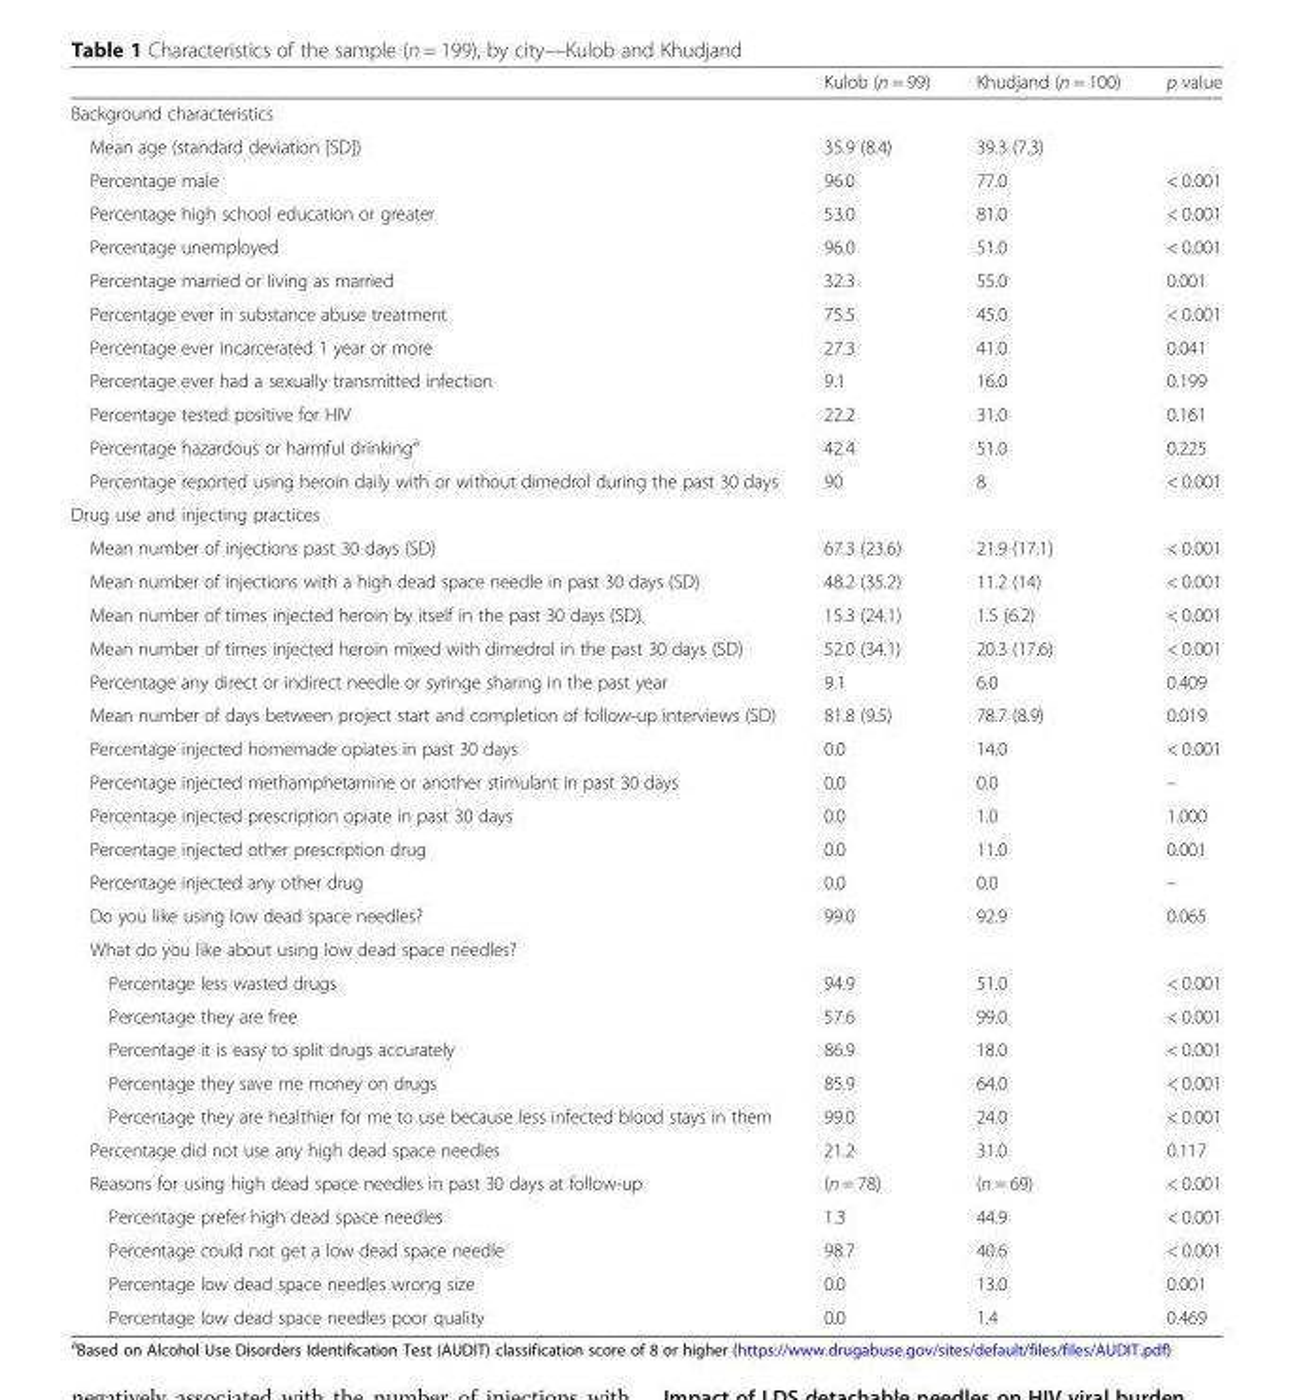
<table><thead><tr><td></td><td>Kulob (n = 99)</td><td>Khudjand (n = 100)</td><td>p value</td></tr></thead><tbody><tr><td colspan="4">Background characteristics</td></tr><tr><td>Mean age (standard deviation [SD])</td><td>35.9 (8.4)</td><td>39.3 (7.3)</td><td></td></tr><tr><td>Percentage male</td><td>96.0</td><td>77.0</td><td>&lt; 0.001</td></tr><tr><td>Percentage high school education or greater</td><td>53.0</td><td>81.0</td><td>&lt; 0.001</td></tr><tr><td>Percentage unemployed</td><td>96.0</td><td>51.0</td><td>&lt; 0.001</td></tr><tr><td>Percentage married or living as married</td><td>32.3</td><td>55.0</td><td>0.001</td></tr><tr><td>Percentage ever in substance abuse treatment</td><td>75.5</td><td>45.0</td><td>&lt; 0.001</td></tr><tr><td>Percentage ever incarcerated 1 year or more</td><td>27.3</td><td>41.0</td><td>0.041</td></tr><tr><td>Percentage ever had a sexually transmitted infection</td><td>9.1</td><td>16.0</td><td>0.199</td></tr><tr><td>Percentage tested positive for HIV</td><td>22.2</td><td>31.0</td><td>0.161</td></tr><tr><td>Percentage hazardous or harmful drinking<sup>a</sup></td><td>42.4</td><td>51.0</td><td>0.225</td></tr><tr><td>Percentage reported using heroin daily with or without dimedrol during the past 30 days</td><td>90</td><td>8</td><td>&lt; 0.001</td></tr><tr><td colspan="4">Drug use and injecting practices</td></tr><tr><td>Mean number of injections past 30 days (SD)</td><td>67.3 (23.6)</td><td>21.9 (17.1)</td><td>&lt; 0.001</td></tr><tr><td>Mean number of injections with a high dead space needle in past 30 days (SD)</td><td>48.2 (35.2)</td><td>11.2 (14)</td><td>&lt; 0.001</td></tr><tr><td>Mean number of times injected heroin by itself in the past 30 days (SD)</td><td>15.3 (24.1)</td><td>1.5 (6.2)</td><td>&lt; 0.001</td></tr><tr><td>Mean number of times injected heroin mixed with dimedrol in the past 30 days (SD)</td><td>52.0 (34.1)</td><td>20.3 (17.6)</td><td>&lt; 0.001</td></tr><tr><td>Percentage any direct or indirect needle or syringe sharing in the past year</td><td>9.1</td><td>6.0</td><td>0.409</td></tr><tr><td>Mean number of days between project start and completion of follow-up interviews (SD)</td><td>81.8 (9.5)</td><td>78.7 (8.9)</td><td>0.019</td></tr><tr><td>Percentage injected homemade opiates in past 30 days</td><td>0.0</td><td>14.0</td><td>&lt; 0.001</td></tr><tr><td>Percentage injected methamphetamine or another stimulant in past 30 days</td><td>0.0</td><td>0.0</td><td>–</td></tr><tr><td>Percentage injected prescription opiate in past 30 days</td><td>0.0</td><td>1.0</td><td>1.000</td></tr><tr><td>Percentage injected other prescription drug</td><td>0.0</td><td>11.0</td><td>0.001</td></tr><tr><td>Percentage injected any other drug</td><td>0.0</td><td>0.0</td><td>–</td></tr><tr><td>Do you like using low dead space needles?</td><td>99.0</td><td>92.9</td><td>0.065</td></tr><tr><td colspan="4">What do you like about using low dead space needles?</td></tr><tr><td>Percentage less wasted drugs</td><td>94.9</td><td>51.0</td><td>&lt; 0.001</td></tr><tr><td>Percentage they are free</td><td>57.6</td><td>99.0</td><td>&lt; 0.001</td></tr><tr><td>Percentage it is easy to split drugs accurately</td><td>86.9</td><td>18.0</td><td>&lt; 0.001</td></tr><tr><td>Percentage they save me money on drugs</td><td>85.9</td><td>64.0</td><td>&lt; 0.001</td></tr><tr><td>Percentage they are healthier for me to use because less infected blood stays in them</td><td>99.0</td><td>24.0</td><td>&lt; 0.001</td></tr><tr><td>Percentage did not use any high dead space needles</td><td>21.2</td><td>31.0</td><td>0.117</td></tr><tr><td>Reasons for using high dead space needles in past 30 days at follow-up</td><td>(n = 78)</td><td>(n = 69)</td><td>&lt; 0.001</td></tr><tr><td>Percentage prefer high dead space needles</td><td>1.3</td><td>44.9</td><td>&lt; 0.001</td></tr><tr><td>Percentage could not get a low dead space needle</td><td>98.7</td><td>40.6</td><td>&lt; 0.001</td></tr><tr><td>Percentage low dead space needles wrong size</td><td>0.0</td><td>13.0</td><td>0.001</td></tr><tr><td>Percentage low dead space needles poor quality</td><td>0.0</td><td>1.4</td><td>0.469</td></tr></tbody></table>